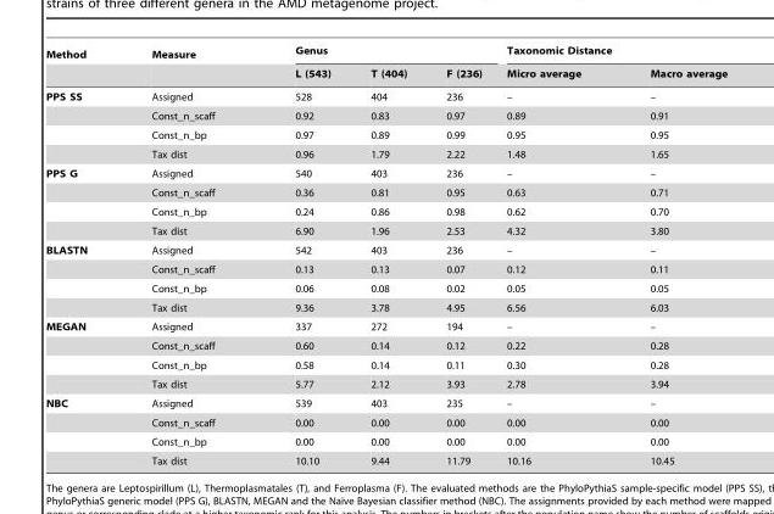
<table><thead><tr><td rowspan="2">Method</td><td rowspan="2">Measure</td><td colspan="3">Genus</td><td colspan="2">Taxonomic Distance</td></tr><tr><td>L (543)</td><td>T (404)</td><td>F (236)</td><td>Micro average</td><td>Macro average</td></tr></thead><tbody><tr><td rowspan="4">PPS SS</td><td>Assigned</td><td>528</td><td>404</td><td>236</td><td>–</td><td>–</td></tr><tr><td>Const_n_scaff</td><td>0.92</td><td>0.83</td><td>0.97</td><td>0.89</td><td>0.91</td></tr><tr><td>Const_n_bp</td><td>0.97</td><td>0.89</td><td>0.99</td><td>0.95</td><td>0.95</td></tr><tr><td>Tax dist</td><td>0.96</td><td>1.79</td><td>2.22</td><td>1.48</td><td>1.65</td></tr><tr><td rowspan="4">PPS G</td><td>Assigned</td><td>540</td><td>403</td><td>236</td><td>–</td><td>–</td></tr><tr><td>Const_n_scaff</td><td>0.36</td><td>0.81</td><td>0.95</td><td>0.63</td><td>0.71</td></tr><tr><td>Const_n_bp</td><td>0.24</td><td>0.86</td><td>0.98</td><td>0.62</td><td>0.70</td></tr><tr><td>Tax dist</td><td>6.90</td><td>1.96</td><td>2.53</td><td>4.32</td><td>3.80</td></tr><tr><td rowspan="4">BLASTN</td><td>Assigned</td><td>542</td><td>403</td><td>236</td><td>–</td><td>–</td></tr><tr><td>Const_n_scaff</td><td>0.13</td><td>0.13</td><td>0.07</td><td>0.12</td><td>0.11</td></tr><tr><td>Const_n_bp</td><td>0.06</td><td>0.08</td><td>0.02</td><td>0.05</td><td>0.05</td></tr><tr><td>Tax dist</td><td>9.36</td><td>3.78</td><td>4.95</td><td>6.56</td><td>6.03</td></tr><tr><td rowspan="4">MEGAN</td><td>Assigned</td><td>337</td><td>272</td><td>194</td><td>–</td><td>–</td></tr><tr><td>Const_n_scaff</td><td>0.60</td><td>0.14</td><td>0.12</td><td>0.22</td><td>0.28</td></tr><tr><td>Const_n_bp</td><td>0.58</td><td>0.14</td><td>0.11</td><td>0.30</td><td>0.28</td></tr><tr><td>Tax dist</td><td>5.77</td><td>2.12</td><td>3.93</td><td>2.78</td><td>3.94</td></tr><tr><td rowspan="4">NBC</td><td>Assigned</td><td>539</td><td>403</td><td>235</td><td>–</td><td>–</td></tr><tr><td>Const_n_scaff</td><td>0.00</td><td>0.00</td><td>0.00</td><td>0.00</td><td>0.00</td></tr><tr><td>Const_n_bp</td><td>0.00</td><td>0.00</td><td>0.00</td><td>0.00</td><td>0.00</td></tr><tr><td>Tax dist</td><td>10.10</td><td>9.44</td><td>11.79</td><td>10.16</td><td>10.45</td></tr></tbody></table>